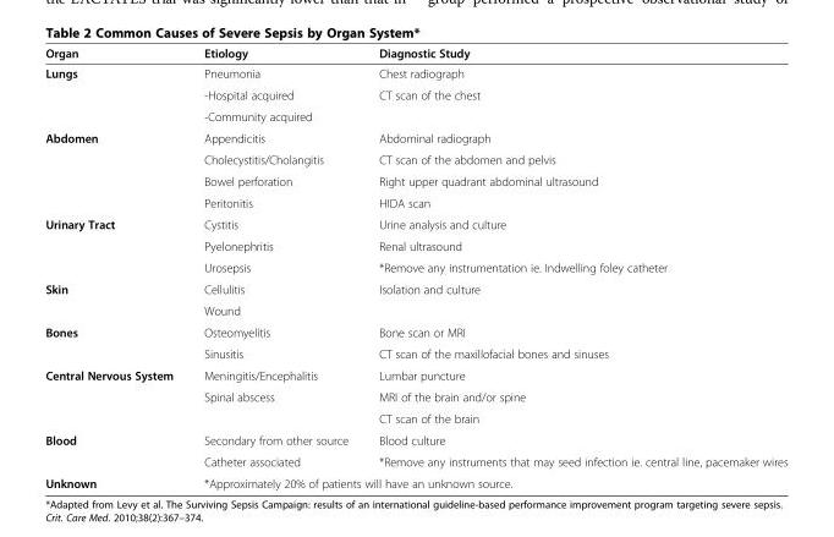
<table><thead><tr><td>Organ</td><td>Etiology</td><td>Diagnostic Study</td></tr></thead><tbody><tr><td rowspan="3">Lungs</td><td>Pneumonia</td><td>Chest radiograph</td></tr><tr><td>-Hospital acquired</td><td>CT scan of the chest</td></tr><tr><td>-Community acquired</td><td></td></tr><tr><td rowspan="4">Abdomen</td><td>Appendicitis</td><td>Abdominal radiograph</td></tr><tr><td>Cholecystitis/Cholangitis</td><td>CT scan of the abdomen and pelvis</td></tr><tr><td>Bowel perforation</td><td>Right upper quadrant abdominal ultrasound</td></tr><tr><td>Peritonitis</td><td>HIDA scan</td></tr><tr><td rowspan="3">Urinary Tract</td><td>Cystitis</td><td>Urine analysis and culture</td></tr><tr><td>Pyelonephritis</td><td>Renal ultrasound</td></tr><tr><td>Urosepsis</td><td>*Remove any instrumentation ie. Indwelling foley catheter</td></tr><tr><td rowspan="2">Skin</td><td>Cellulitis</td><td>Isolation and culture</td></tr><tr><td>Wound</td><td></td></tr><tr><td rowspan="2">Bones</td><td>Osteomyelitis</td><td>Bone scan or MRI</td></tr><tr><td>Sinusitis</td><td>CT scan of the maxillofacial bones and sinuses</td></tr><tr><td rowspan="3">Central Nervous System</td><td>Meningitis/Encephalitis</td><td>Lumbar puncture</td></tr><tr><td>Spinal abscess</td><td>MRI of the brain and/or spine</td></tr><tr><td></td><td>CT scan of the brain</td></tr><tr><td rowspan="2">Blood</td><td>Secondary from other source</td><td>Blood culture</td></tr><tr><td>Catheter associated</td><td>*Remove any instruments that may seed infection ie. central line, pacemaker wires</td></tr><tr><td>Unknown</td><td colspan="2">*Approximately 20% of patients will have an unknown source.</td></tr></tbody></table>